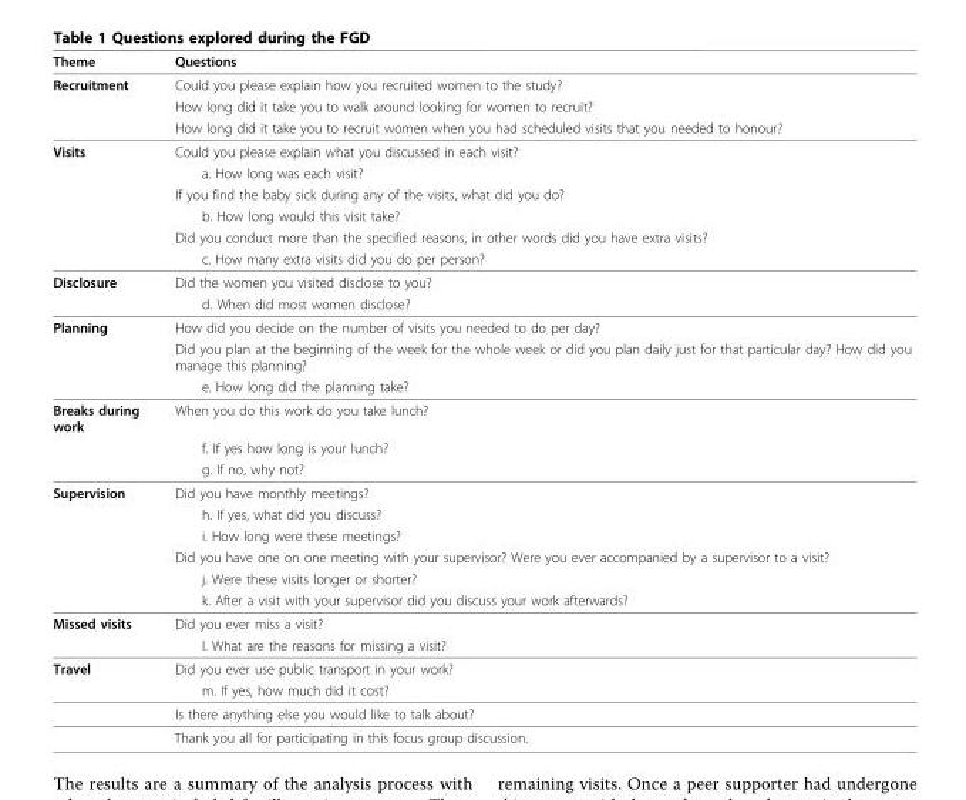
<table><thead><tr><td>Theme</td><td>Questions</td></tr></thead><tbody><tr><td rowspan="3">Recruitment</td><td>Could you please explain how you recruited women to the study?</td></tr><tr><td>How long did it take you to walk around looking for women to recruit?</td></tr><tr><td>How long did it take you to recruit women when you had scheduled visits that you needed to honour?</td></tr><tr><td rowspan="6">Visits</td><td>Could you please explain what you discussed in each visit?</td></tr><tr><td>a. How long was each visit?</td></tr><tr><td>If you find the baby sick during any of the visits, what did you do?</td></tr><tr><td>b. How long would this visit take?</td></tr><tr><td>Did you conduct more than the specified reasons, in other words did you have extra visits?</td></tr><tr><td>c. How many extra visits did you do per person?</td></tr><tr><td rowspan="2">Disclosure</td><td>Did the women you visited disclose to you?</td></tr><tr><td>d. When did most women disclose?</td></tr><tr><td rowspan="3">Planning</td><td>How did you decide on the number of visits you needed to do per day?</td></tr><tr><td>Did you plan at the beginning of the week for the whole week or did you plan daily just for that particular day? How did you manage this planning?</td></tr><tr><td>e. How long did the planning take?</td></tr><tr><td rowspan="3">Breaks during work</td><td>When you do this work do you take lunch?</td></tr><tr><td>f. If yes how long is your lunch?</td></tr><tr><td>g. If no, why not?</td></tr><tr><td rowspan="6">Supervision</td><td>Did you have monthly meetings?</td></tr><tr><td>h. If yes, what did you discuss?</td></tr><tr><td>i. How long were these meetings?</td></tr><tr><td>Did you have one on one meeting with your supervisor? Were you ever accompanied by a supervisor to a visit?</td></tr><tr><td>j. Were these visits longer or shorter?</td></tr><tr><td>k. After a visit with your supervisor did you discuss your work afterwards?</td></tr><tr><td rowspan="2">Missed visits</td><td>Did you ever miss a visit?</td></tr><tr><td>l. What are the reasons for missing a visit?</td></tr><tr><td rowspan="3">Travel</td><td>Did you ever use public transport in your work?</td></tr><tr><td>m. If yes, how much did it cost?</td></tr><tr><td>Is there anything else you would like to talk about?</td></tr><tr><td colspan="2">Thank you all for participating in this focus group discussion.</td></tr></tbody></table>